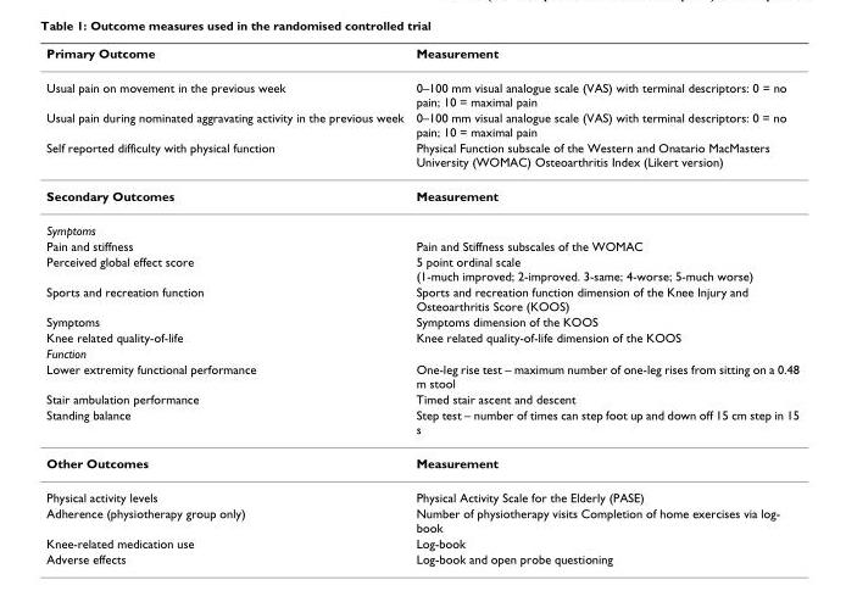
<table><thead><tr><td>Primary Outcome</td><td>Measurement</td></tr></thead><tbody><tr><td>Usual pain on movement in the previous week</td><td>0–100 mm visual analogue scale (VAS) with terminal descriptors: 0 = no pain; 10 = maximal pain</td></tr><tr><td>Usual pain during nominated aggravating activity in the previous week</td><td>0–100 mm visual analogue scale (VAS) with terminal descriptors: 0 = no pain; 10 = maximal pain</td></tr><tr><td>Self reported difficulty with physical function</td><td>Physical Function subscale of the Western and Onatario MacMasters University (WOMAC) Osteoarthritis Index (Likert version)</td></tr><tr><td>Secondary Outcomes</td><td>Measurement</td></tr><tr><td colspan="2">Symptoms</td></tr><tr><td>Pain and stiffness</td><td>Pain and Stiffness subscales of the WOMAC</td></tr><tr><td>Perceived global effect score</td><td>5 point ordinal scale (1-much improved; 2-improved. 3-same; 4-worse; 5-much worse)</td></tr><tr><td>Sports and recreation function</td><td>Sports and recreation function dimension of the Knee Injury and Osteoarthritis Score (KOOS)</td></tr><tr><td>Symptoms</td><td>Symptoms dimension of the KOOS</td></tr><tr><td>Knee related quality-of-life</td><td>Knee related quality-of-life dimension of the KOOS</td></tr><tr><td colspan="2">Function</td></tr><tr><td>Lower extremity functional performance</td><td>One-leg rise test – maximum number of one-leg rises from sitting on a 0.48 m stool</td></tr><tr><td>Stair ambulation performance</td><td>Timed stair ascent and descent</td></tr><tr><td>Standing balance</td><td>Step test – number of times can step foot up and down off 15 cm step in 15 s</td></tr><tr><td>Other Outcomes</td><td>Measurement</td></tr><tr><td>Physical activity levels</td><td>Physical Activity Scale for the Elderly (PASE)</td></tr><tr><td>Adherence (physiotherapy group only)</td><td>Number of physiotherapy visits Completion of home exercises via log- book</td></tr><tr><td>Knee-related medication use</td><td>Log-book</td></tr><tr><td>Adverse effects</td><td>Log-book and open probe questioning</td></tr></tbody></table>